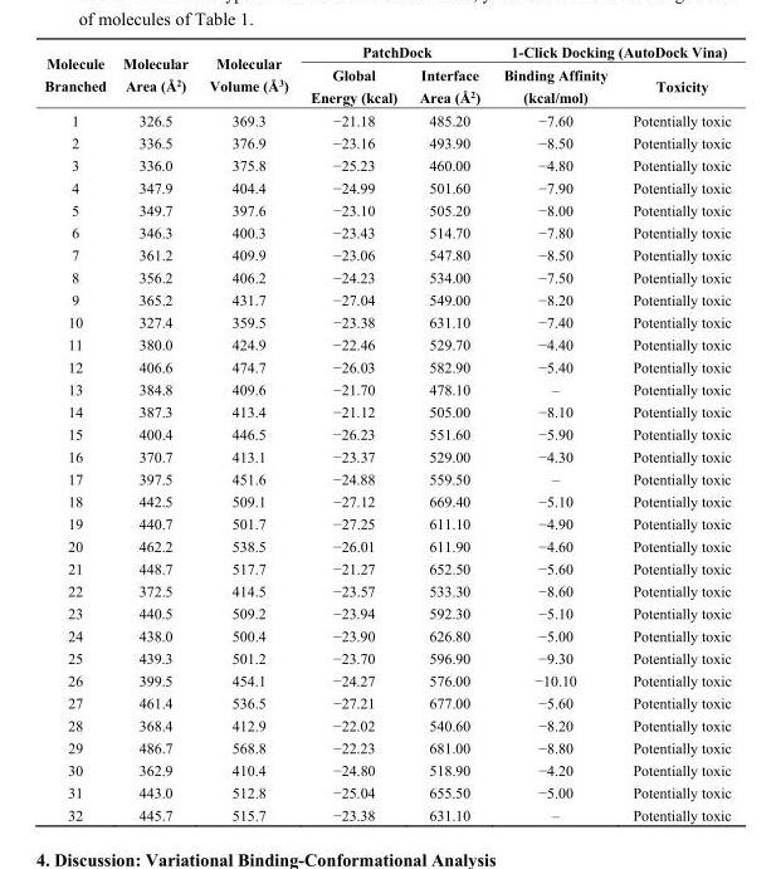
<table><thead><tr><td rowspan="2">Molecule Branched</td><td rowspan="2">Molecular Area (Å<sup>2</sup>)</td><td rowspan="2">Molecular Volume (Å<sup>3</sup>)</td><td colspan="2">PatchDock</td><td colspan="2">1-Click Docking (AutoDock Vina)</td></tr><tr><td>Global Energy (kcal)</td><td>Interface Area (Å<sup>2</sup>)</td><td>Binding Affinity (kcal/mol)</td><td>Toxicity</td></tr></thead><tbody><tr><td>1</td><td>326.5</td><td>369.3</td><td>−21.18</td><td>485.20</td><td>−7.60</td><td>Potentially toxic</td></tr><tr><td>2</td><td>336.5</td><td>376.9</td><td>−23.16</td><td>493.90</td><td>−8.50</td><td>Potentially toxic</td></tr><tr><td>3</td><td>336.0</td><td>375.8</td><td>−25.23</td><td>460.00</td><td>−4.80</td><td>Potentially toxic</td></tr><tr><td>4</td><td>347.9</td><td>404.4</td><td>−24.99</td><td>501.60</td><td>−7.90</td><td>Potentially toxic</td></tr><tr><td>5</td><td>349.7</td><td>397.6</td><td>−23.10</td><td>505.20</td><td>−8.00</td><td>Potentially toxic</td></tr><tr><td>6</td><td>346.3</td><td>400.3</td><td>−23.43</td><td>514.70</td><td>−7.80</td><td>Potentially toxic</td></tr><tr><td>7</td><td>361.2</td><td>409.9</td><td>−23.06</td><td>547.80</td><td>−8.50</td><td>Potentially toxic</td></tr><tr><td>8</td><td>356.2</td><td>406.2</td><td>−24.23</td><td>534.00</td><td>−7.50</td><td>Potentially toxic</td></tr><tr><td>9</td><td>365.2</td><td>431.7</td><td>−27.04</td><td>549.00</td><td>−8.20</td><td>Potentially toxic</td></tr><tr><td>10</td><td>327.4</td><td>359.5</td><td>−23.38</td><td>631.10</td><td>−7.40</td><td>Potentially toxic</td></tr><tr><td>11</td><td>380.0</td><td>424.9</td><td>−22.46</td><td>529.70</td><td>−4.40</td><td>Potentially toxic</td></tr><tr><td>12</td><td>406.6</td><td>474.7</td><td>−26.03</td><td>582.90</td><td>−5.40</td><td>Potentially toxic</td></tr><tr><td>13</td><td>384.8</td><td>409.6</td><td>−21.70</td><td>478.10</td><td>–</td><td>Potentially toxic</td></tr><tr><td>14</td><td>387.3</td><td>413.4</td><td>−21.12</td><td>505.00</td><td>−8.10</td><td>Potentially toxic</td></tr><tr><td>15</td><td>400.4</td><td>446.5</td><td>−26.23</td><td>551.60</td><td>−5.90</td><td>Potentially toxic</td></tr><tr><td>16</td><td>370.7</td><td>413.1</td><td>−23.37</td><td>529.00</td><td>−4.30</td><td>Potentially toxic</td></tr><tr><td>17</td><td>397.5</td><td>451.6</td><td>−24.88</td><td>559.50</td><td>–</td><td>Potentially toxic</td></tr><tr><td>18</td><td>442.5</td><td>509.1</td><td>−27.12</td><td>669.40</td><td>−5.10</td><td>Potentially toxic</td></tr><tr><td>19</td><td>440.7</td><td>501.7</td><td>−27.25</td><td>611.10</td><td>−4.90</td><td>Potentially toxic</td></tr><tr><td>20</td><td>462.2</td><td>538.5</td><td>−26.01</td><td>611.90</td><td>−4.60</td><td>Potentially toxic</td></tr><tr><td>21</td><td>448.7</td><td>517.7</td><td>−21.27</td><td>652.50</td><td>−5.60</td><td>Potentially toxic</td></tr><tr><td>22</td><td>372.5</td><td>414.5</td><td>−23.57</td><td>533.30</td><td>−8.60</td><td>Potentially toxic</td></tr><tr><td>23</td><td>440.5</td><td>509.2</td><td>−23.94</td><td>592.30</td><td>−5.10</td><td>Potentially toxic</td></tr><tr><td>24</td><td>438.0</td><td>500.4</td><td>−23.90</td><td>626.80</td><td>−5.00</td><td>Potentially toxic</td></tr><tr><td>25</td><td>439.3</td><td>501.2</td><td>−23.70</td><td>596.90</td><td>−9.30</td><td>Potentially toxic</td></tr><tr><td>26</td><td>399.5</td><td>454.1</td><td>−24.27</td><td>576.00</td><td>−10.10</td><td>Potentially toxic</td></tr><tr><td>27</td><td>461.4</td><td>536.5</td><td>−27.21</td><td>677.00</td><td>−5.60</td><td>Potentially toxic</td></tr><tr><td>28</td><td>368.4</td><td>412.9</td><td>−22.02</td><td>540.60</td><td>−8.20</td><td>Potentially toxic</td></tr><tr><td>29</td><td>486.7</td><td>568.8</td><td>−22.23</td><td>681.00</td><td>−8.80</td><td>Potentially toxic</td></tr><tr><td>30</td><td>362.9</td><td>410.4</td><td>−24.80</td><td>518.90</td><td>−4.20</td><td>Potentially toxic</td></tr><tr><td>31</td><td>443.0</td><td>512.8</td><td>−25.04</td><td>655.50</td><td>−5.00</td><td>Potentially toxic</td></tr><tr><td>32</td><td>445.7</td><td>515.7</td><td>−23.38</td><td>631.10</td><td>–</td><td>Potentially toxic</td></tr></tbody></table>